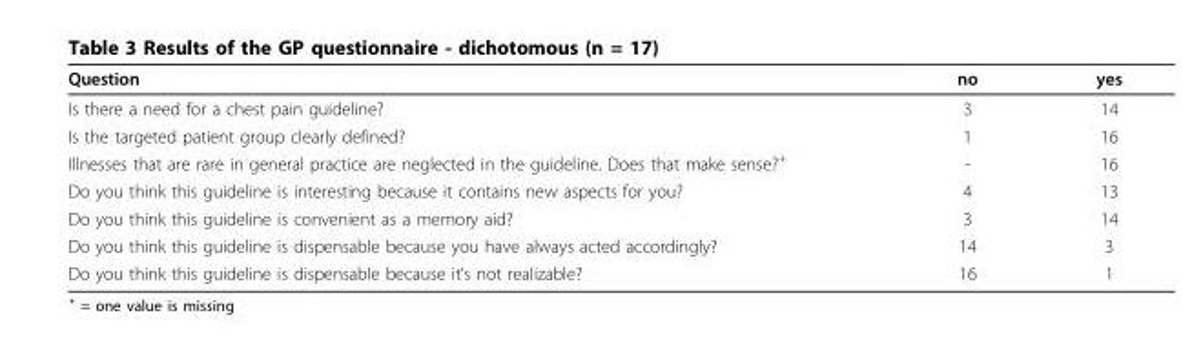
<table><thead><tr><td>Question</td><td>no</td><td>yes</td></tr></thead><tbody><tr><td>Is there a need for a chest pain guideline?</td><td>3</td><td>14</td></tr><tr><td>Is the targeted patient group clearly defined?</td><td>1</td><td>16</td></tr><tr><td>Illnesses that are rare in general practice are neglected in the guideline. Does that make sense?<sup>+</sup></td><td>-</td><td>16</td></tr><tr><td>Do you think this guideline is interesting because it contains new aspects for you?</td><td>4</td><td>13</td></tr><tr><td>Do you think this guideline is convenient as a memory aid?</td><td>3</td><td>14</td></tr><tr><td>Do you think this guideline is dispensable because you have always acted accordingly?</td><td>14</td><td>3</td></tr><tr><td>Do you think this guideline is dispensable because it’s not realizable?</td><td>16</td><td>1</td></tr></tbody></table>